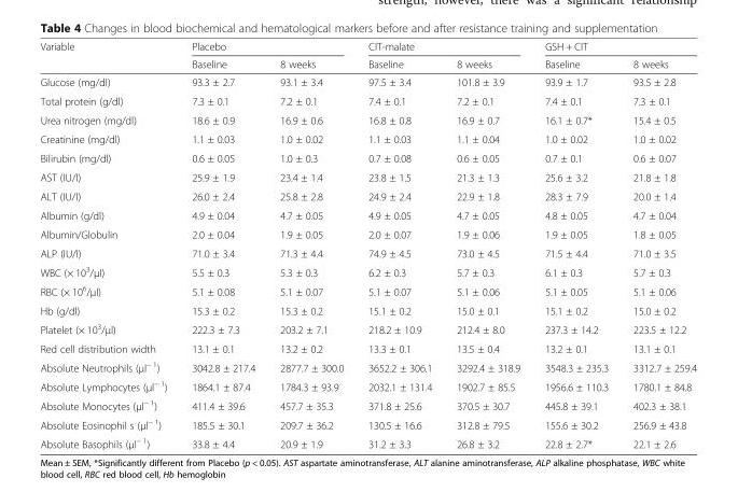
<table><thead><tr><td rowspan="2">Variable</td><td colspan="2">Placebo</td><td colspan="2">CIT-malate</td><td colspan="2">GSH + CIT</td></tr><tr><td>Baseline</td><td>8 weeks</td><td>Baseline</td><td>8 weeks</td><td>Baseline</td><td>8 weeks</td></tr></thead><tbody><tr><td>Glucose (mg/dl)</td><td>93.3 ± 2.7</td><td>93.1 ± 3.4</td><td>97.5 ± 3.4</td><td>101.8 ± 3.9</td><td>93.9 ± 1.7</td><td>93.5 ± 2.8</td></tr><tr><td>Total protein (g/dl)</td><td>7.3 ± 0.1</td><td>7.2 ± 0.1</td><td>7.4 ± 0.1</td><td>7.2 ± 0.1</td><td>7.4 ± 0.1</td><td>7.3 ± 0.1</td></tr><tr><td>Urea nitrogen (mg/dl)</td><td>18.6 ± 0.9</td><td>16.9 ± 0.6</td><td>16.8 ± 0.8</td><td>16.9 ± 0.7</td><td>16.1 ± 0.7*</td><td>15.4 ± 0.5</td></tr><tr><td>Creatinine (mg/dl)</td><td>1.1 ± 0.03</td><td>1.0 ± 0.02</td><td>1.1 ± 0.03</td><td>1.1 ± 0.04</td><td>1.0 ± 0.02</td><td>1.0 ± 0.02</td></tr><tr><td>Bilirubin (mg/dl)</td><td>0.6 ± 0.05</td><td>1.0 ± 0.3</td><td>0.7 ± 0.08</td><td>0.6 ± 0.05</td><td>0.7 ± 0.1</td><td>0.6 ± 0.07</td></tr><tr><td>AST (IU/l)</td><td>25.9 ± 1.9</td><td>23.4 ± 1.4</td><td>23.8 ± 1.5</td><td>21.3 ± 1.3</td><td>25.6 ± 3.2</td><td>21.8 ± 1.8</td></tr><tr><td>ALT (IU/l)</td><td>26.0 ± 2.4</td><td>25.8 ± 2.8</td><td>24.9 ± 2.4</td><td>22.9 ± 1.8</td><td>28.3 ± 7.9</td><td>20.0 ± 1.4</td></tr><tr><td>Albumin (g/dl)</td><td>4.9 ± 0.04</td><td>4.7 ± 0.05</td><td>4.9 ± 0.05</td><td>4.7 ± 0.05</td><td>4.8 ± 0.05</td><td>4.7 ± 0.04</td></tr><tr><td>Albumin/Globulin</td><td>2.0 ± 0.04</td><td>1.9 ± 0.05</td><td>2.0 ± 0.07</td><td>1.9 ± 0.06</td><td>1.9 ± 0.05</td><td>1.8 ± 0.05</td></tr><tr><td>ALP (IU/l)</td><td>71.0 ± 3.4</td><td>71.3 ± 4.4</td><td>74.9 ± 4.5</td><td>73.0 ± 4.5</td><td>71.5 ± 4.4</td><td>71.0 ± 3.5</td></tr><tr><td>WBC (× 10<sup>3</sup>/μl)</td><td>5.5 ± 0.3</td><td>5.3 ± 0.3</td><td>6.2 ± 0.3</td><td>5.7 ± 0.3</td><td>6.1 ± 0.3</td><td>5.7 ± 0.3</td></tr><tr><td>RBC (× 10<sup>6</sup>/μl)</td><td>5.1 ± 0.08</td><td>5.1 ± 0.07</td><td>5.1 ± 0.07</td><td>5.1 ± 0.06</td><td>5.1 ± 0.05</td><td>5.1 ± 0.06</td></tr><tr><td>Hb (g/dl)</td><td>15.3 ± 0.2</td><td>15.3 ± 0.2</td><td>15.1 ± 0.2</td><td>15.0 ± 0.1</td><td>15.1 ± 0.2</td><td>15.0 ± 0.2</td></tr><tr><td>Platelet (× 10<sup>3</sup>/μl)</td><td>222.3 ± 7.3</td><td>203.2 ± 7.1</td><td>218.2 ± 10.9</td><td>212.4 ± 8.0</td><td>237.3 ± 14.2</td><td>223.5 ± 12.2</td></tr><tr><td>Red cell distribution width</td><td>13.1 ± 0.1</td><td>13.2 ± 0.2</td><td>13.3 ± 0.1</td><td>13.5 ± 0.4</td><td>13.2 ± 0.1</td><td>13.1 ± 0.1</td></tr><tr><td>Absolute Neutrophils (μl<sup>− 1</sup>)</td><td>3042.8 ± 217.4</td><td>2877.7 ± 300.0</td><td>3652.2 ± 306.1</td><td>3292.4 ± 318.9</td><td>3548.3 ± 235.3</td><td>3312.7 ± 259.4</td></tr><tr><td>Absolute Lymphocytes (μl<sup>− 1</sup>)</td><td>1864.1 ± 87.4</td><td>1784.3 ± 93.9</td><td>2032.1 ± 131.4</td><td>1902.7 ± 85.5</td><td>1956.6 ± 110.3</td><td>1780.1 ± 84.8</td></tr><tr><td>Absolute Monocytes (μl<sup>− 1</sup>)</td><td>411.4 ± 39.6</td><td>457.7 ± 35.3</td><td>371.8 ± 25.6</td><td>370.5 ± 30.7</td><td>445.8 ± 39.1</td><td>402.3 ± 38.1</td></tr><tr><td>Absolute Eosinophil s (μl<sup>− 1</sup>)</td><td>185.5 ± 30.1</td><td>209.7 ± 36.2</td><td>130.5 ± 16.6</td><td>312.8 ± 79.5</td><td>155.6 ± 30.2</td><td>256.9 ± 43.8</td></tr><tr><td>Absolute Basophils (μl<sup>− 1</sup>)</td><td>33.8 ± 4.4</td><td>20.9 ± 1.9</td><td>31.2 ± 3.3</td><td>26.8 ± 3.2</td><td>22.8 ± 2.7*</td><td>22.1 ± 2.6</td></tr></tbody></table>